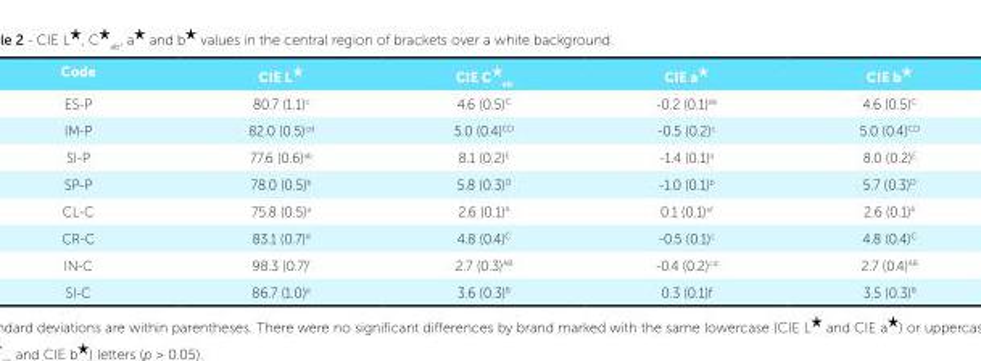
<table><thead><tr><td>Code</td><td>CIE L*</td><td>CIE C*<sub>ab</sub></td><td>CIE a*</td><td>CIE b*</td></tr></thead><tbody><tr><td>ES-P</td><td>80.7 (1.1)<sup>c</sup></td><td>4.6 (0.5)<sup>C</sup></td><td>-0.2 (0.1)<sup>de</sup></td><td>4.6 (0.5)<sup>C</sup></td></tr><tr><td>IM-P</td><td>82.0 (0.5)<sup>cd</sup></td><td>5.0 (0.4)<sup>CD</sup></td><td>-0.5 (0.2)<sup>c</sup></td><td>5.0 (0.4)<sup>CD</sup></td></tr><tr><td>SI-P</td><td>77.6 (0.6)<sup>ab</sup></td><td>8.1 (0.2)<sup>E</sup></td><td>-1.4 (0.1)<sup>a</sup></td><td>8.0 (0.2)<sup>E</sup></td></tr><tr><td>SP-P</td><td>78.0 (0.5)<sup>b</sup></td><td>5.8 (0.3)<sup>D</sup></td><td>-1.0 (0.1)<sup>b</sup></td><td>5.7 (0.3)<sup>D</sup></td></tr><tr><td>CL-C</td><td>75.8 (0.5)<sup>a</sup></td><td>2.6 (0.1)<sup>A</sup></td><td>0.1 (0.1)<sup>ef</sup></td><td>2.6 (0.1)<sup>A</sup></td></tr><tr><td>CR-C</td><td>83.1 (0.7)<sup>d</sup></td><td>4.8 (0.4)<sup>C</sup></td><td>-0.5 (0.1)<sup>c</sup></td><td>4.8 (0.4)<sup>C</sup></td></tr><tr><td>IN-C</td><td>98.3 (0.7)<sup>f</sup></td><td>2.7 (0.3)<sup>AB</sup></td><td>-0.4 (0.2)<sup>cd</sup></td><td>2.7 (0.4)<sup>AB</sup></td></tr><tr><td>SI-C</td><td>86.7 (1.0)<sup>e</sup></td><td>3.6 (0.3)<sup>B</sup></td><td>0.3 (0.1)f</td><td>3.5 (0.3)<sup>B</sup></td></tr></tbody></table>